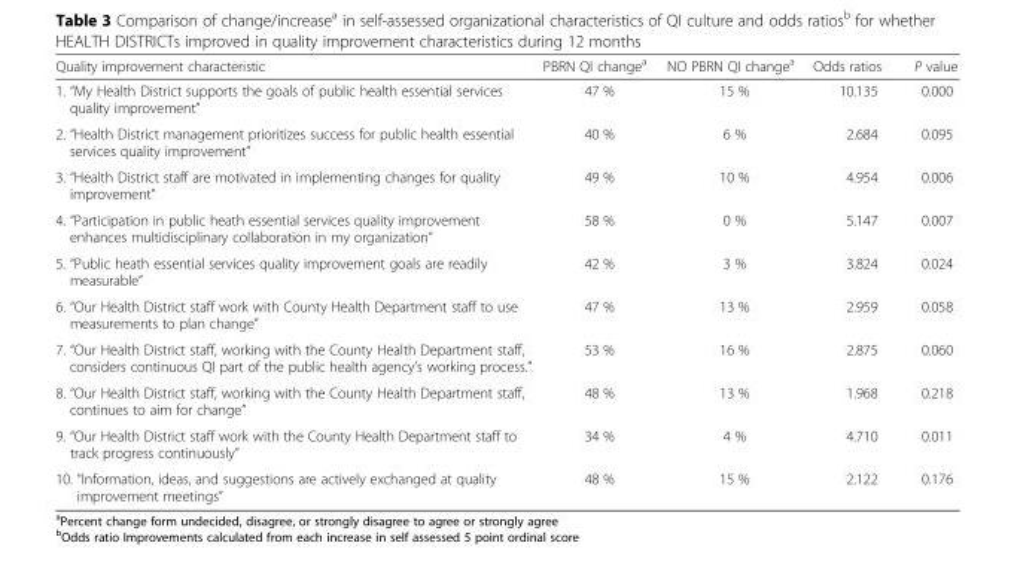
<table><thead><tr><td>Quality improvement characteristic</td><td>PBRN QI change<sup>a</sup></td><td>NO PBRN QI change<sup>a</sup></td><td>Odds ratios</td><td>P value</td></tr></thead><tbody><tr><td>1. “My Health District supports the goals of public health essential services quality improvement”</td><td>47 %</td><td>15 %</td><td>10.135</td><td>0.000</td></tr><tr><td>2. “Health District management prioritizes success for public health essential services quality improvement”</td><td>40 %</td><td>6 %</td><td>2.684</td><td>0.095</td></tr><tr><td>3. “Health District staff are motivated in implementing changes for quality improvement”</td><td>49 %</td><td>10 %</td><td>4.954</td><td>0.006</td></tr><tr><td>4. “Participation in public heath essential services quality improvement enhances multidisciplinary collaboration in my organization”</td><td>58 %</td><td>0 %</td><td>5.147</td><td>0.007</td></tr><tr><td>5. “Public heath essential services quality improvement goals are readily measurable”</td><td>42 %</td><td>3 %</td><td>3.824</td><td>0.024</td></tr><tr><td>6. “Our Health District staff work with County Health Department staff to use measurements to plan change”</td><td>47 %</td><td>13 %</td><td>2.959</td><td>0.058</td></tr><tr><td>7. “Our Health District staff, working with the County Health Department staff, considers continuous QI part of the public health agency’s working process.”</td><td>53 %</td><td>16 %</td><td>2.875</td><td>0.060</td></tr><tr><td>8. “Our Health District staff, working with the County Health Department staff, continues to aim for change”</td><td>48 %</td><td>13 %</td><td>1.968</td><td>0.218</td></tr><tr><td>9. “Our Health District staff work with the County Health Department staff to track progress continuously”</td><td>34 %</td><td>4 %</td><td>4.710</td><td>0.011</td></tr><tr><td>10. “Information, ideas, and suggestions are actively exchanged at quality improvement meetings”</td><td>48 %</td><td>15 %</td><td>2.122</td><td>0.176</td></tr></tbody></table>